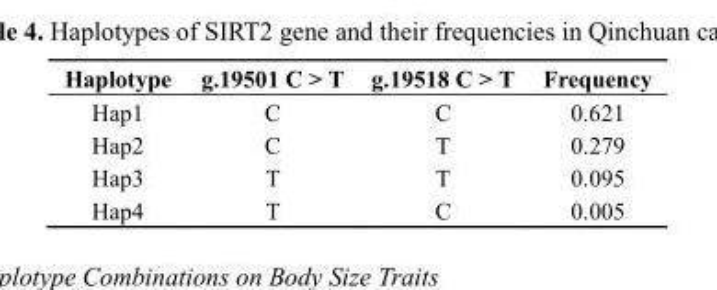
<table><thead><tr><td>Haplotype</td><td>g.19501 C &gt; T</td><td>g.19518 C &gt; T</td><td>Frequency</td></tr></thead><tbody><tr><td>Hap1</td><td>C</td><td>C</td><td>0.621</td></tr><tr><td>Hap2</td><td>C</td><td>T</td><td>0.279</td></tr><tr><td>Hap3</td><td>T</td><td>T</td><td>0.095</td></tr><tr><td>Hap4</td><td>T</td><td>C</td><td>0.005</td></tr></tbody></table>